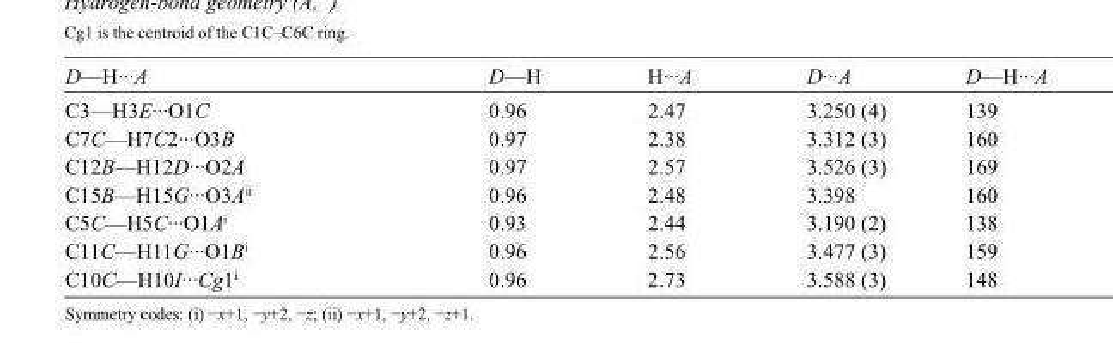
<table><tbody><tr><td>D—H···A</td><td>D—H</td><td>H···A</td><td>D···A</td><td>D—H···A</td></tr><tr><td>C3—H3E···O1C</td><td>0.96</td><td>2.47</td><td>3.250 (4)</td><td>139</td></tr><tr><td>C7C—H7C2···O3B</td><td>0.97</td><td>2.38</td><td>3.312 (3)</td><td>160</td></tr><tr><td>C12B—H12D···O2A</td><td>0.97</td><td>2.57</td><td>3.526 (3)</td><td>169</td></tr><tr><td>C15B—H15G···O3A<sup>ii</sup></td><td>0.96</td><td>2.48</td><td>3.398</td><td>160</td></tr><tr><td>C5C—H5C···O1A<sup>i</sup></td><td>0.93</td><td>2.44</td><td>3.190 (2)</td><td>138</td></tr><tr><td>C11C—H11G···O1B<sup>i</sup></td><td>0.96</td><td>2.56</td><td>3.477 (3)</td><td>159</td></tr><tr><td>C10C—H10I···Cg1<sup>i</sup></td><td>0.96</td><td>2.73</td><td>3.588 (3)</td><td>148</td></tr></tbody></table>